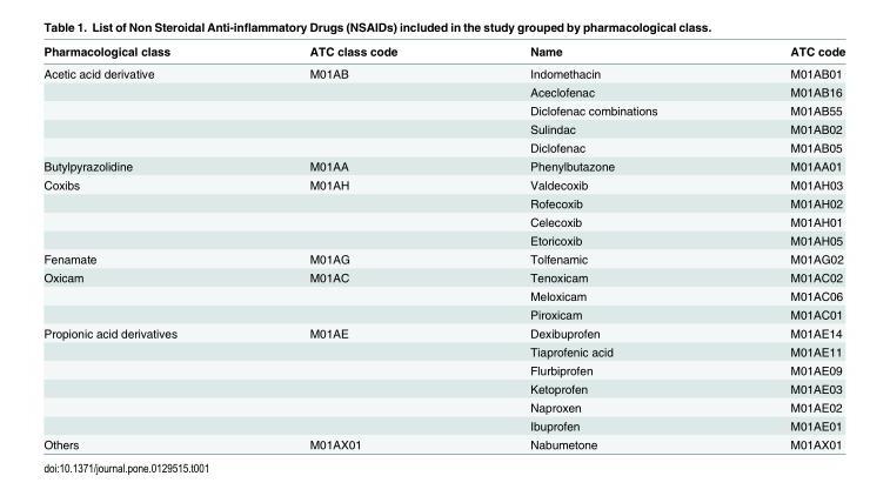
<table><thead><tr><td>Pharmacological class</td><td>ATC class code</td><td>Name</td><td>ATC code</td></tr></thead><tbody><tr><td rowspan="5">Acetic acid derivative</td><td>M01AB</td><td>Indomethacin</td><td>M01AB01</td></tr><tr><td></td><td>Aceclofenac</td><td>M01AB16</td></tr><tr><td></td><td>Diclofenac combinations</td><td>M01AB55</td></tr><tr><td></td><td>Sulindac</td><td>M01AB02</td></tr><tr><td></td><td>Diclofenac</td><td>M01AB05</td></tr><tr><td>Butylpyrazolidine</td><td>M01AA</td><td>Phenylbutazone</td><td>M01AA01</td></tr><tr><td rowspan="4">Coxibs</td><td>M01AH</td><td>Valdecoxib</td><td>M01AH03</td></tr><tr><td></td><td>Rofecoxib</td><td>M01AH02</td></tr><tr><td></td><td>Celecoxib</td><td>M01AH01</td></tr><tr><td></td><td>Etoricoxib</td><td>M01AH05</td></tr><tr><td>Fenamate</td><td>M01AG</td><td>Tolfenamic</td><td>M01AG02</td></tr><tr><td rowspan="3">Oxicam</td><td>M01AC</td><td>Tenoxicam</td><td>M01AC02</td></tr><tr><td></td><td>Meloxicam</td><td>M01AC06</td></tr><tr><td></td><td>Piroxicam</td><td>M01AC01</td></tr><tr><td rowspan="6">Propionic acid derivatives</td><td>M01AE</td><td>Dexibuprofen</td><td>M01AE14</td></tr><tr><td></td><td>Tiaprofenic acid</td><td>M01AE11</td></tr><tr><td></td><td>Flurbiprofen</td><td>M01AE09</td></tr><tr><td></td><td>Ketoprofen</td><td>M01AE03</td></tr><tr><td></td><td>Naproxen</td><td>M01AE02</td></tr><tr><td></td><td>Ibuprofen</td><td>M01AE01</td></tr><tr><td>Others</td><td>M01AX01</td><td>Nabumetone</td><td>M01AX01</td></tr></tbody></table>